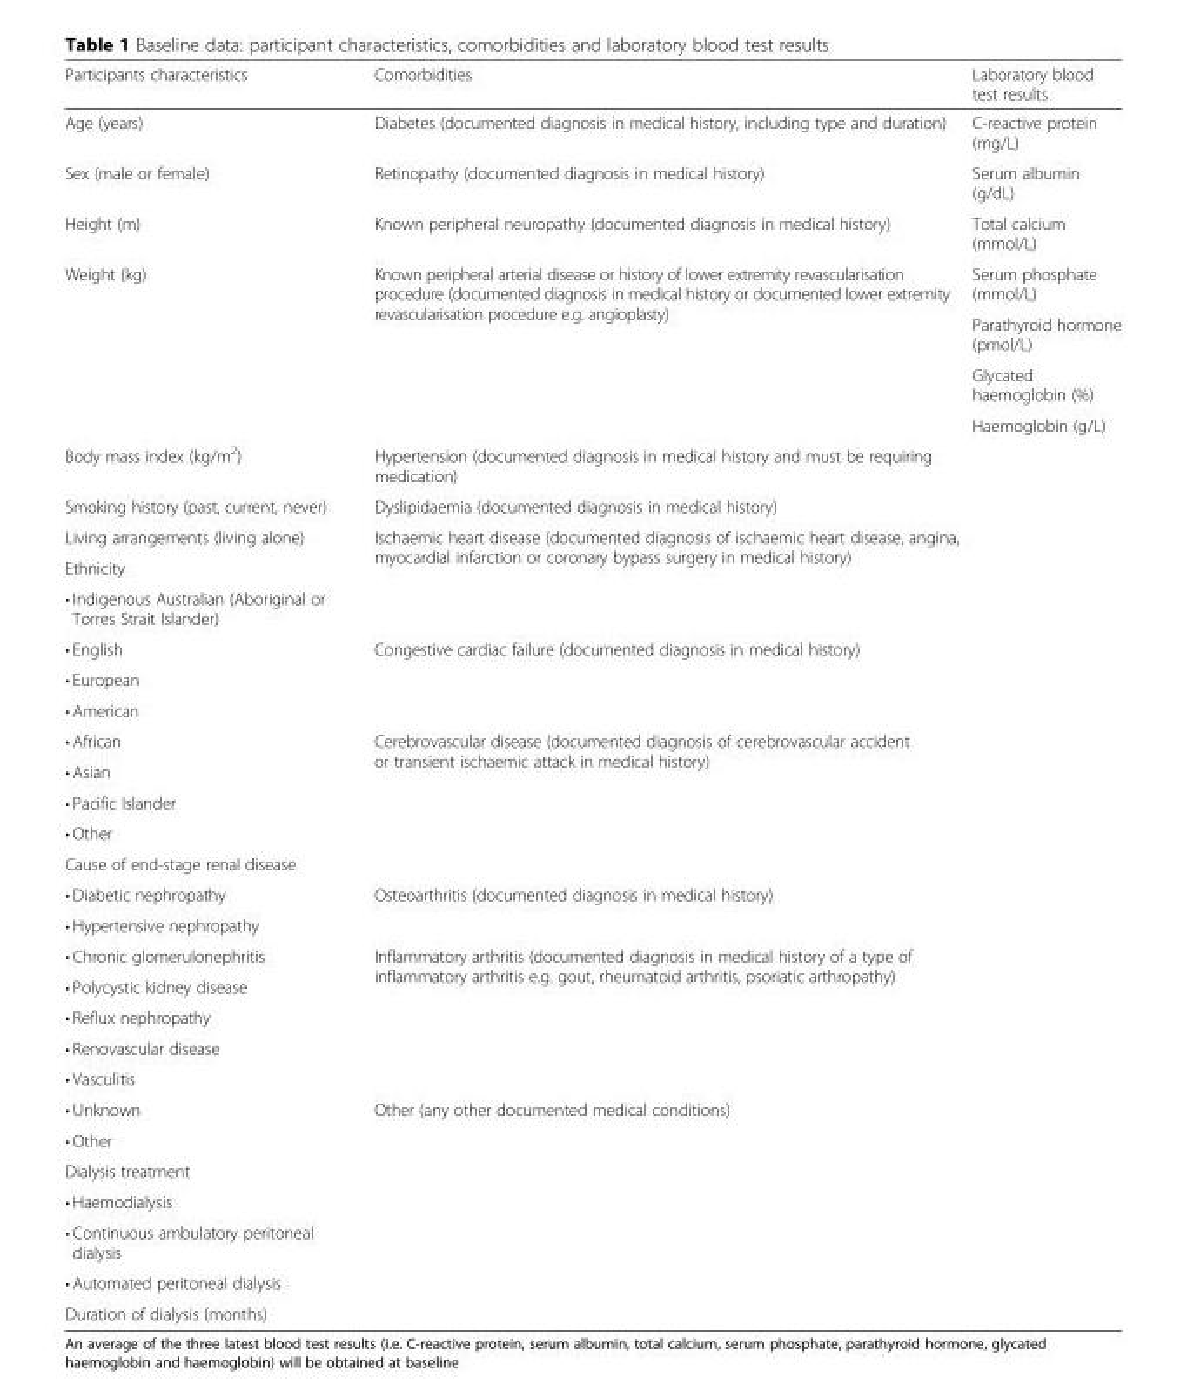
<table><thead><tr><td>Participants characteristics</td><td>Comorbidities</td><td>Laboratory blood test results</td></tr></thead><tbody><tr><td>Age (years)</td><td>Diabetes (documented diagnosis in medical history, including type and duration)</td><td>C-reactive protein (mg/L)</td></tr><tr><td>Sex (male or female)</td><td>Retinopathy (documented diagnosis in medical history)</td><td>Serum albumin (g/dL)</td></tr><tr><td>Height (m)</td><td>Known peripheral neuropathy (documented diagnosis in medical history)</td><td>Total calcium (mmol/L)</td></tr><tr><td rowspan="4">Weight (kg)</td><td rowspan="4">Known peripheral arterial disease or history of lower extremity revascularisation procedure (documented diagnosis in medical history or documented lower extremity revascularisation procedure e.g. angioplasty)</td><td>Serum phosphate (mmol/L)</td></tr><tr><td>Parathyroid hormone (pmol/L)</td></tr><tr><td>Glycated haemoglobin (%)</td></tr><tr><td>Haemoglobin (g/L)</td></tr><tr><td>Body mass index (kg/m<sup>2</sup>)</td><td>Hypertension (documented diagnosis in medical history and must be requiring medication)</td><td rowspan="27"></td></tr><tr><td>Smoking history (past, current, never)</td><td>Dyslipidaemia (documented diagnosis in medical history)</td></tr><tr><td>Living arrangements (living alone)</td><td rowspan="3">Ischaemic heart disease (documented diagnosis of ischaemic heart disease, angina, myocardial infarction or coronary bypass surgery in medical history)</td></tr><tr><td>Ethnicity</td></tr><tr><td>• Indigenous Australian (Aboriginal or Torres Strait Islander)</td></tr><tr><td>• English</td><td rowspan="3">Congestive cardiac failure (documented diagnosis in medical history)</td></tr><tr><td>• European</td></tr><tr><td>• American</td></tr><tr><td>• African</td><td rowspan="4">Cerebrovascular disease (documented diagnosis of cerebrovascular accident or transient ischaemic attack in medical history)</td></tr><tr><td>• Asian</td></tr><tr><td>• Pacific Islander</td></tr><tr><td>• Other</td></tr><tr><td colspan="2">Cause of end-stage renal disease</td></tr><tr><td>• Diabetic nephropathy</td><td rowspan="2">Osteoarthritis (documented diagnosis in medical history)</td></tr><tr><td>• Hypertensive nephropathy</td></tr><tr><td>• Chronic glomerulonephritis</td><td rowspan="5">Inflammatory arthritis (documented diagnosis in medical history of a type of inflammatory arthritis e.g. gout, rheumatoid arthritis, psoriatic arthropathy)</td></tr><tr><td>• Polycystic kidney disease</td></tr><tr><td>• Reflux nephropathy</td></tr><tr><td>• Renovascular disease</td></tr><tr><td>• Vasculitis</td></tr><tr><td>• Unknown</td><td rowspan="7">Other (any other documented medical conditions)</td></tr><tr><td>• Other</td></tr><tr><td>Dialysis treatment</td></tr><tr><td>• Haemodialysis</td></tr><tr><td>• Continuous ambulatory peritoneal dialysis</td></tr><tr><td>• Automated peritoneal dialysis</td></tr><tr><td>Duration of dialysis (months)</td></tr></tbody></table>